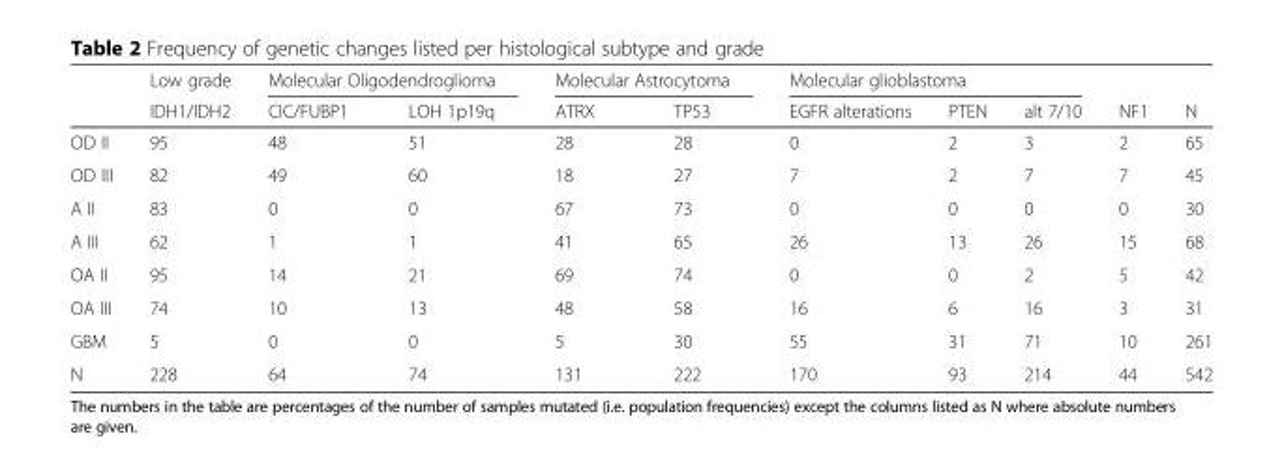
<table><thead><tr><td rowspan="2"></td><td rowspan="2">Low grade IDH1/IDH2</td><td colspan="2">Molecular Oligodendroglioma</td><td colspan="2">Molecular Astrocytoma</td><td colspan="3">Molecular glioblastoma</td><td rowspan="2">NF1</td><td rowspan="2">N</td></tr><tr><td>CIC/FUBP1</td><td>LOH 1p19q</td><td>ATRX</td><td>TP53</td><td>EGFR alterations</td><td>PTEN</td><td>alt 7/10</td></tr></thead><tbody><tr><td>OD II</td><td>95</td><td>48</td><td>51</td><td>28</td><td>28</td><td>0</td><td>2</td><td>3</td><td>2</td><td>65</td></tr><tr><td>OD III</td><td>82</td><td>49</td><td>60</td><td>18</td><td>27</td><td>7</td><td>2</td><td>7</td><td>7</td><td>45</td></tr><tr><td>A II</td><td>83</td><td>0</td><td>0</td><td>67</td><td>73</td><td>0</td><td>0</td><td>0</td><td>0</td><td>30</td></tr><tr><td>A III</td><td>62</td><td>1</td><td>1</td><td>41</td><td>65</td><td>26</td><td>13</td><td>26</td><td>15</td><td>68</td></tr><tr><td>OA II</td><td>95</td><td>14</td><td>21</td><td>69</td><td>74</td><td>0</td><td>0</td><td>2</td><td>5</td><td>42</td></tr><tr><td>OA III</td><td>74</td><td>10</td><td>13</td><td>48</td><td>58</td><td>16</td><td>6</td><td>16</td><td>3</td><td>31</td></tr><tr><td>GBM</td><td>5</td><td>0</td><td>0</td><td>5</td><td>30</td><td>55</td><td>31</td><td>71</td><td>10</td><td>261</td></tr><tr><td>N</td><td>228</td><td>64</td><td>74</td><td>131</td><td>222</td><td>170</td><td>93</td><td>214</td><td>44</td><td>542</td></tr></tbody></table>